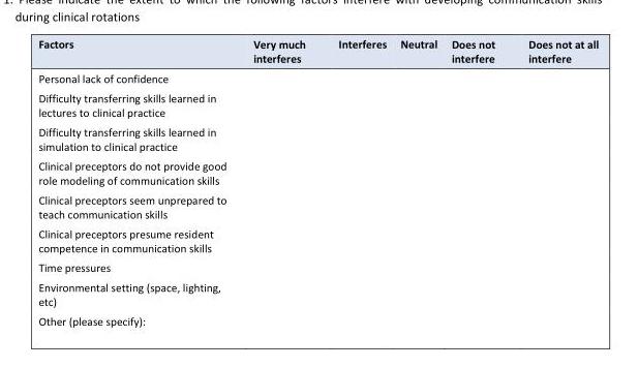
<table><thead><tr><td>Factors</td><td>Very much interferes</td><td>Interferes</td><td>Neutral</td><td>Does not interfere</td><td>Does not at all interfere</td></tr></thead><tbody><tr><td colspan="6">Personal lack of confidence</td></tr><tr><td colspan="6">Difficulty transferring skills learned in lectures to clinical practice</td></tr><tr><td colspan="6">Difficulty transferring skills learned in simulation to clinical practice</td></tr><tr><td colspan="6">Clinical preceptors do not provide good role modeling of communication skills</td></tr><tr><td colspan="6">Clinical preceptors seem unprepared to teach communication skills</td></tr><tr><td colspan="6">Clinical preceptors presume resident competence in communication skills</td></tr><tr><td colspan="6">Time pressures</td></tr><tr><td colspan="6">Environmental setting (space, lighting, etc)</td></tr><tr><td>Other (please specify):</td><td></td><td></td><td></td><td></td><td></td></tr></tbody></table>